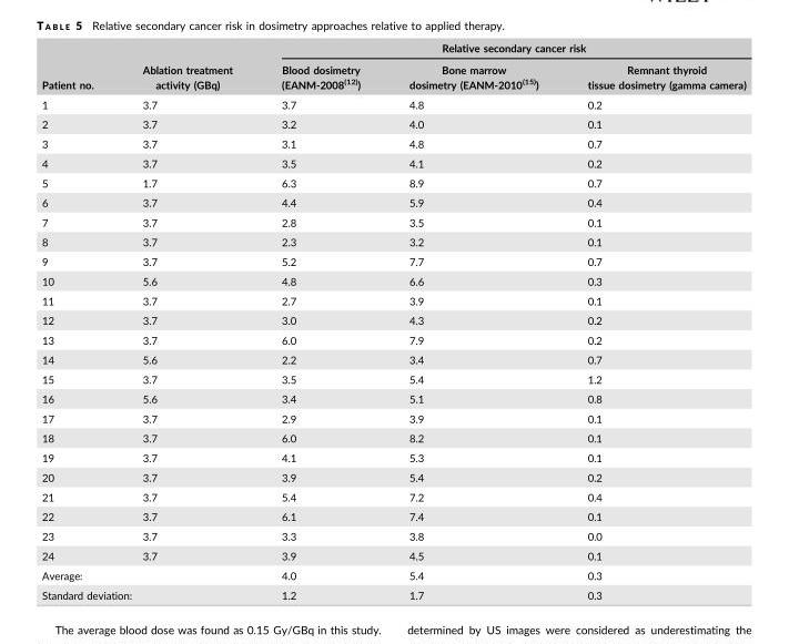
<table><thead><tr><td rowspan="2">Patient no.</td><td rowspan="2">Ablation treatment activity (GBq)</td><td colspan="3">Relative secondary cancer risk</td></tr><tr><td>Blood dosimetry (EANM-2008<sup>(12)</sup>)</td><td>Bone marrow dosimetry (EANM-2010<sup>(15)</sup>)</td><td>Remnant thyroid tissue dosimetry (gamma camera)</td></tr></thead><tbody><tr><td>1</td><td>3.7</td><td>3.7</td><td>4.8</td><td>0.2</td></tr><tr><td>2</td><td>3.7</td><td>3.2</td><td>4.0</td><td>0.1</td></tr><tr><td>3</td><td>3.7</td><td>3.1</td><td>4.8</td><td>0.7</td></tr><tr><td>4</td><td>3.7</td><td>3.5</td><td>4.1</td><td>0.2</td></tr><tr><td>5</td><td>1.7</td><td>6.3</td><td>8.9</td><td>0.7</td></tr><tr><td>6</td><td>3.7</td><td>4.4</td><td>5.9</td><td>0.4</td></tr><tr><td>7</td><td>3.7</td><td>2.8</td><td>3.5</td><td>0.1</td></tr><tr><td>8</td><td>3.7</td><td>2.3</td><td>3.2</td><td>0.1</td></tr><tr><td>9</td><td>3.7</td><td>5.2</td><td>7.7</td><td>0.7</td></tr><tr><td>10</td><td>5.6</td><td>4.8</td><td>6.6</td><td>0.3</td></tr><tr><td>11</td><td>3.7</td><td>2.7</td><td>3.9</td><td>0.1</td></tr><tr><td>12</td><td>3.7</td><td>3.0</td><td>4.3</td><td>0.2</td></tr><tr><td>13</td><td>3.7</td><td>6.0</td><td>7.9</td><td>0.2</td></tr><tr><td>14</td><td>5.6</td><td>2.2</td><td>3.4</td><td>0.7</td></tr><tr><td>15</td><td>3.7</td><td>3.5</td><td>5.4</td><td>1.2</td></tr><tr><td>16</td><td>5.6</td><td>3.4</td><td>5.1</td><td>0.8</td></tr><tr><td>17</td><td>3.7</td><td>2.9</td><td>3.9</td><td>0.1</td></tr><tr><td>18</td><td>3.7</td><td>6.0</td><td>8.2</td><td>0.1</td></tr><tr><td>19</td><td>3.7</td><td>4.1</td><td>5.3</td><td>0.1</td></tr><tr><td>20</td><td>3.7</td><td>3.9</td><td>5.4</td><td>0.2</td></tr><tr><td>21</td><td>3.7</td><td>5.4</td><td>7.2</td><td>0.4</td></tr><tr><td>22</td><td>3.7</td><td>6.1</td><td>7.4</td><td>0.1</td></tr><tr><td>23</td><td>3.7</td><td>3.3</td><td>3.8</td><td>0.0</td></tr><tr><td>24</td><td>3.7</td><td>3.9</td><td>4.5</td><td>0.1</td></tr><tr><td colspan="2">Average:</td><td>4.0</td><td>5.4</td><td>0.3</td></tr><tr><td colspan="2">Standard deviation:</td><td>1.2</td><td>1.7</td><td>0.3</td></tr></tbody></table>